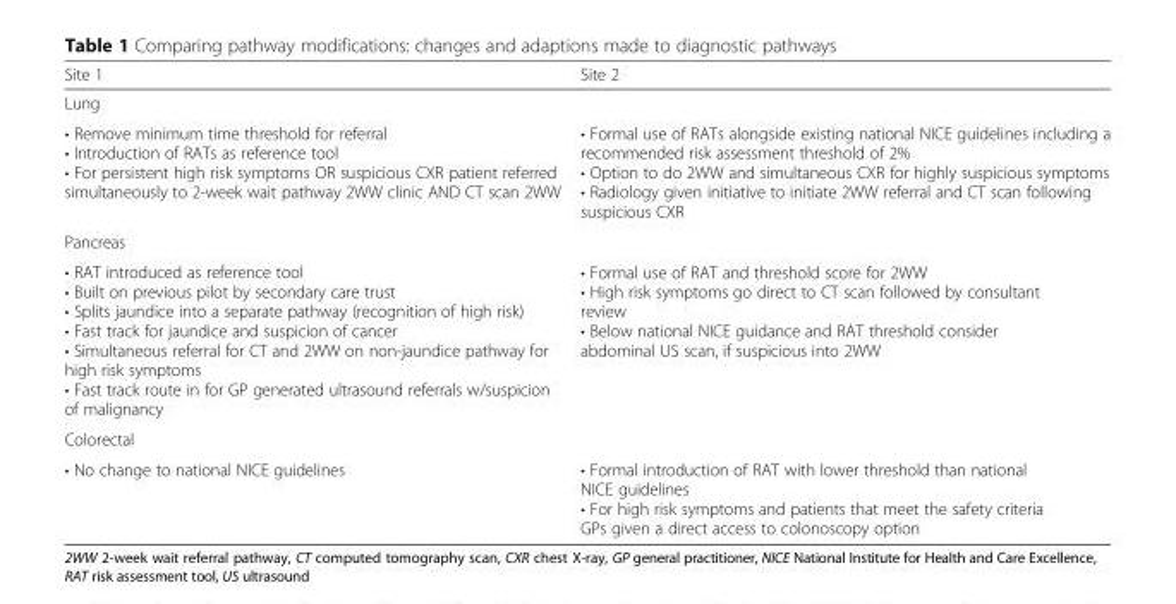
<table><thead><tr><td>Site 1</td><td>Site 2</td></tr></thead><tbody><tr><td colspan="2">Lung</td></tr><tr><td>• Remove minimum time threshold for referral • Introduction of RATs as reference tool • For persistent high risk symptoms OR suspicious CXR patient referred simultaneously to 2-week wait pathway 2WW clinic AND CT scan 2WW</td><td>• Formal use of RATs alongside existing national NICE guidelines including a recommended risk assessment threshold of 2% • Option to do 2WW and simultaneous CXR for highly suspicious symptoms • Radiology given initiative to initiate 2WW referral and CT scan following suspicious CXR</td></tr><tr><td colspan="2">Pancreas</td></tr><tr><td>• RAT introduced as reference tool • Built on previous pilot by secondary care trust • Splits jaundice into a separate pathway (recognition of high risk) • Fast track for jaundice and suspicion of cancer • Simultaneous referral for CT and 2WW on non-jaundice pathway for high risk symptoms • Fast track route in for GP generated ultrasound referrals w/suspicion of malignancy</td><td>• Formal use of RAT and threshold score for 2WW • High risk symptoms go direct to CT scan followed by consultant review • Below national NICE guidance and RAT threshold consider abdominal US scan, if suspicious into 2WW</td></tr><tr><td colspan="2">Colorectal</td></tr><tr><td>• No change to national NICE guidelines</td><td>• Formal introduction of RAT with lower threshold than national NICE guidelines • For high risk symptoms and patients that meet the safety criteria GPs given a direct access to colonoscopy option</td></tr></tbody></table>